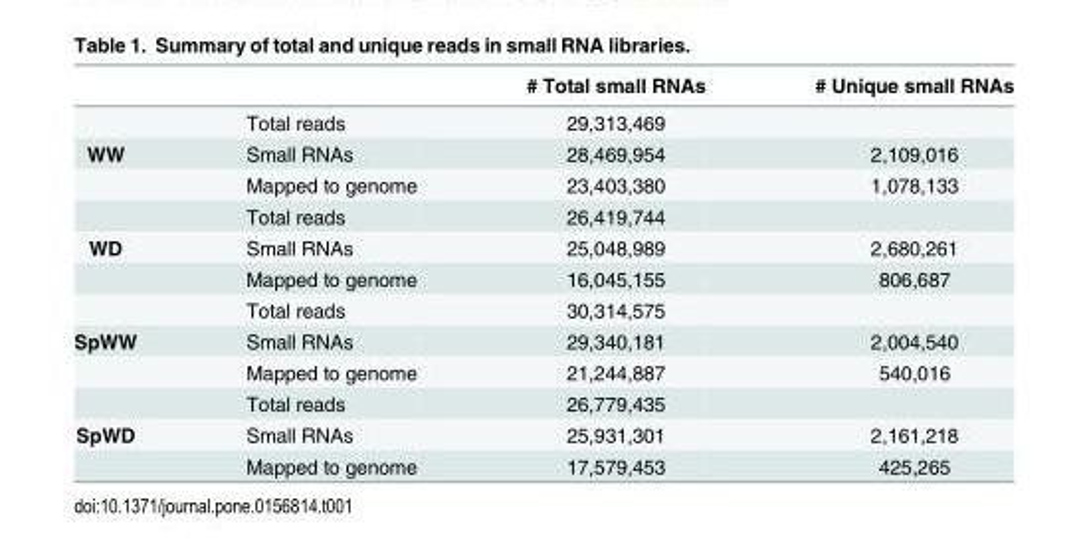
<table><thead><tr><td></td><td></td><td># Total small RNAs</td><td># Unique small RNAs</td></tr></thead><tbody><tr><td></td><td>Total reads</td><td>29,313,469</td><td></td></tr><tr><td rowspan="3">WW</td><td>Small RNAs</td><td>28,469,954</td><td>2,109,016</td></tr><tr><td>Mapped to genome</td><td>23,403,380</td><td>1,078,133</td></tr><tr><td>Total reads</td><td>26,419,744</td><td></td></tr><tr><td rowspan="3">WD</td><td>Small RNAs</td><td>25,048,989</td><td>2,680,261</td></tr><tr><td>Mapped to genome</td><td>16,045,155</td><td>806,687</td></tr><tr><td>Total reads</td><td>30,314,575</td><td></td></tr><tr><td rowspan="3">SpWW</td><td>Small RNAs</td><td>29,340,181</td><td>2,004,540</td></tr><tr><td>Mapped to genome</td><td>21,244,887</td><td>540,016</td></tr><tr><td>Total reads</td><td>26,779,435</td><td></td></tr><tr><td rowspan="2">SpWD</td><td>Small RNAs</td><td>25,931,301</td><td>2,161,218</td></tr><tr><td>Mapped to genome</td><td>17,579,453</td><td>425,265</td></tr></tbody></table>